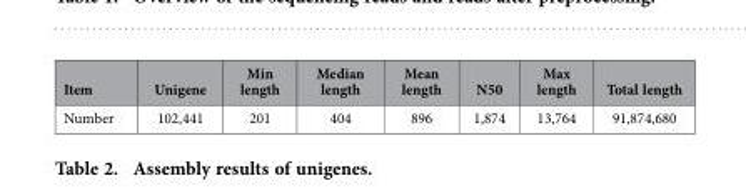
<table><thead><tr><td>Item</td><td>Unigene</td><td>Min length</td><td>Median length</td><td>Mean length</td><td>N50</td><td>Max length</td><td>Total length</td></tr></thead><tbody><tr><td>Number</td><td>102,441</td><td>201</td><td>404</td><td>896</td><td>1,874</td><td>13,764</td><td>91,874,680</td></tr></tbody></table>